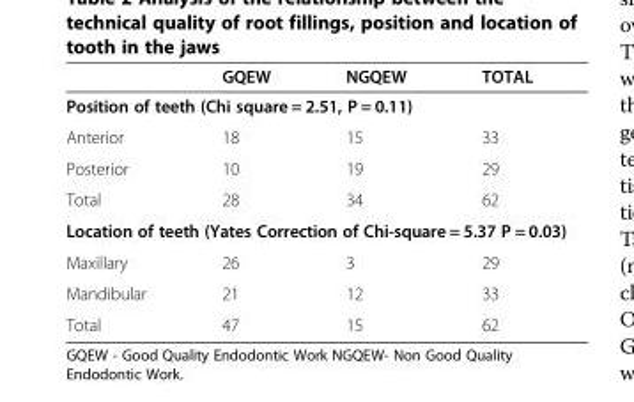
<table><thead><tr><td></td><td>GQEW</td><td>NGQEW</td><td>TOTAL</td></tr></thead><tbody><tr><td colspan="4">Position of teeth (Chi square = 2.51, P = 0.11)</td></tr><tr><td>Anterior</td><td>18</td><td>15</td><td>33</td></tr><tr><td>Posterior</td><td>10</td><td>19</td><td>29</td></tr><tr><td>Total</td><td>28</td><td>34</td><td>62</td></tr><tr><td colspan="4">Location of teeth (Yates Correction of Chi-square = 5.37 P = 0.03)</td></tr><tr><td>Maxillary</td><td>26</td><td>3</td><td>29</td></tr><tr><td>Mandibular</td><td>21</td><td>12</td><td>33</td></tr><tr><td>Total</td><td>47</td><td>15</td><td>62</td></tr></tbody></table>